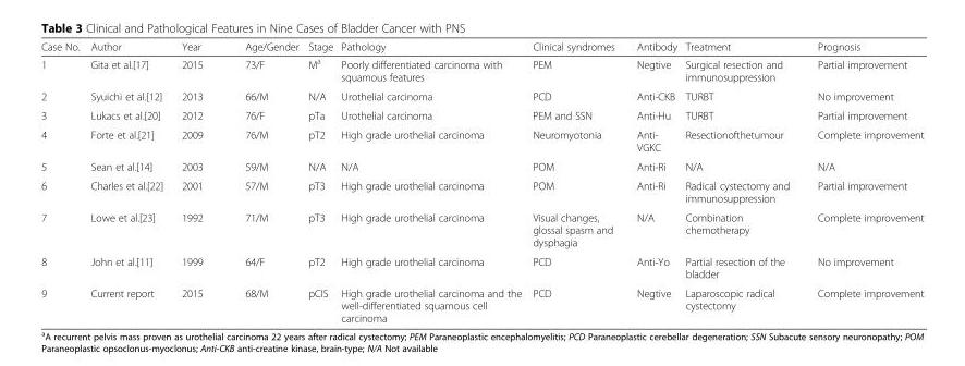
<table><thead><tr><td>Case No.</td><td>Author</td><td>Year</td><td>Age/Gender</td><td>Stage</td><td>Pathology</td><td>Clinical syndromes</td><td>Antibody</td><td>Treatment</td><td>Prognosis</td></tr></thead><tbody><tr><td>1</td><td>Gita et al.[17]</td><td>2015</td><td>73/F</td><td>M<sup>a</sup></td><td>Poorly differentiated carcinoma with squamous features</td><td>PEM</td><td>Negtive</td><td>Surgical resection and immunosuppression</td><td>Partial improvement</td></tr><tr><td>2</td><td>Syuichi et al.[12]</td><td>2013</td><td>66/M</td><td>N/A</td><td>Urothelial carcinoma</td><td>PCD</td><td>Anti-CKB</td><td>TURBT</td><td>No improvement</td></tr><tr><td>3</td><td>Lukacs et al.[20]</td><td>2012</td><td>76/F</td><td>pTa</td><td>Urothelial carcinoma</td><td>PEM and SSN</td><td>Anti-Hu</td><td>TURBT</td><td>Partial improvement</td></tr><tr><td>4</td><td>Forte et al.[21]</td><td>2009</td><td>76/M</td><td>pT2</td><td>High grade urothelial carcinoma</td><td>Neuromyotonia</td><td>Anti- VGKC</td><td>Resectionofthetumour</td><td>Complete improvement</td></tr><tr><td>5</td><td>Sean et al.[14]</td><td>2003</td><td>59/M</td><td>N/A</td><td>N/A</td><td>POM</td><td>Anti-Ri</td><td>N/A</td><td>N/A</td></tr><tr><td>6</td><td>Charles et al.[22]</td><td>2001</td><td>57/M</td><td>pT3</td><td>High grade urothelial carcinoma</td><td>POM</td><td>Anti-Ri</td><td>Radical cystectomy and immunosuppression</td><td>Partial improvement</td></tr><tr><td>7</td><td>Lowe et al.[23]</td><td>1992</td><td>71/M</td><td>pT3</td><td>High grade urothelial carcinoma</td><td>Visual changes, glossal spasm and dysphagia</td><td>N/A</td><td>Combination chemotherapy</td><td>Complete improvement</td></tr><tr><td>8</td><td>John et al.[11]</td><td>1999</td><td>64/F</td><td>pT2</td><td>High grade urothelial carcinoma</td><td>PCD</td><td>Anti-Yo</td><td>Partial resection of the bladder</td><td>No improvement</td></tr><tr><td>9</td><td>Current report</td><td>2015</td><td>68/M</td><td>pCIS</td><td>High grade urothelial carcinoma and the well-differentiated squamous cell carcinoma</td><td>PCD</td><td>Negtive</td><td>Laparoscopic radical cystectomy</td><td>Complete improvement</td></tr></tbody></table>